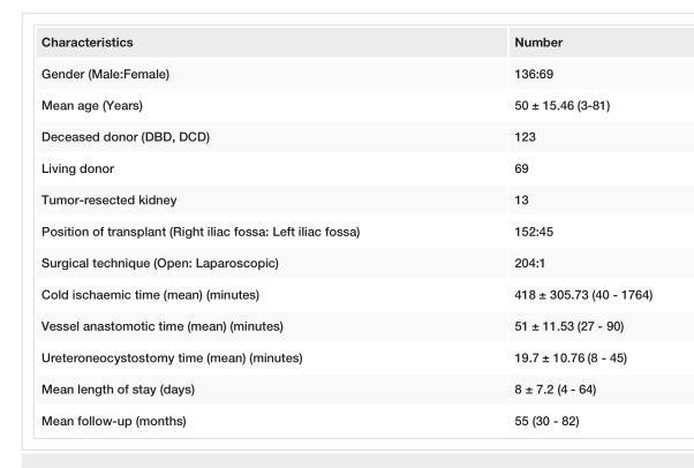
<table><tbody><tr><td>Characteristics</td><td>Number</td></tr><tr><td>Gender (Male:Female)</td><td>136:69</td></tr><tr><td>Mean age (Years)</td><td>50 ± 15.46 (3-81)</td></tr><tr><td>Deceased donor (DBD, DCD)</td><td>123</td></tr><tr><td>Living donor</td><td>69</td></tr><tr><td>Tumor-resected kidney</td><td>13</td></tr><tr><td>Position of transplant (Right iliac fossa: Left iliac fossa)</td><td>152:45</td></tr><tr><td>Surgical technique (Open: Laparoscopic)</td><td>204:1</td></tr><tr><td>Cold ischaemic time (mean) (minutes)</td><td>418 ± 305.73 (40 - 1764)</td></tr><tr><td>Vessel anastomotic time (mean) (minutes)</td><td>51 ± 11.53 (27 - 90)</td></tr><tr><td>Ureteroneocystostomy time (mean) (minutes)</td><td>19.7 ± 10.76 (8 - 45)</td></tr><tr><td>Mean length of stay (days)</td><td>8 ± 7.2 (4 - 64)</td></tr><tr><td>Mean follow-up (months)</td><td>55 (30 - 82)</td></tr></tbody></table>